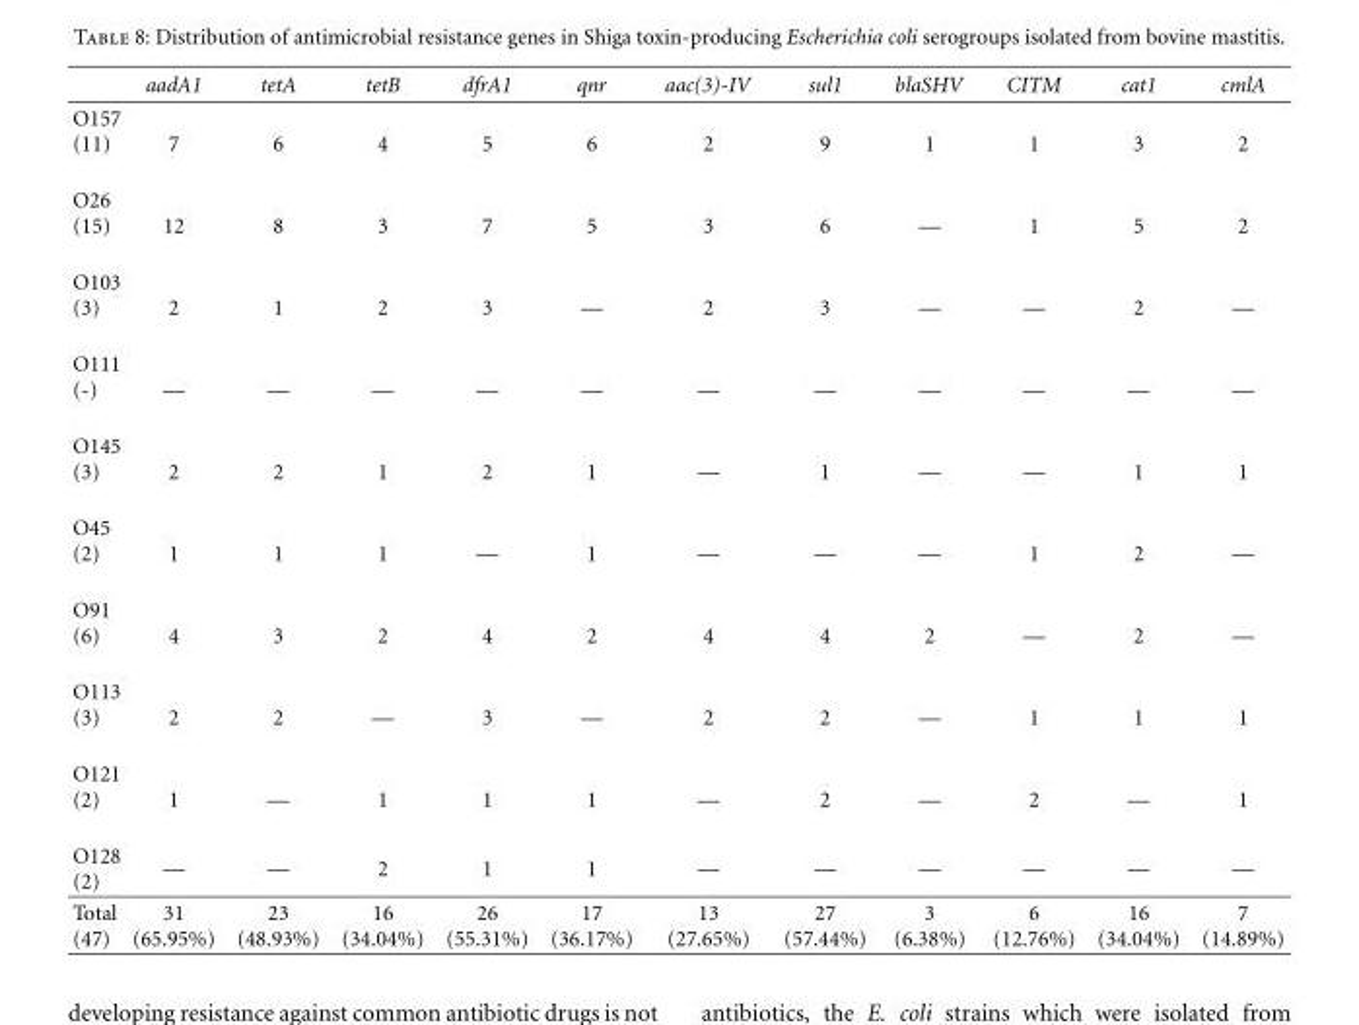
<table><thead><tr><td></td><td>aadA1</td><td>tetA</td><td>tetB</td><td>dfrA1</td><td>qnr</td><td>aac(3)-IV</td><td>sul1</td><td>blaSHV</td><td>CITM</td><td>cat1</td><td>cmlA</td></tr></thead><tbody><tr><td>O157 (11)</td><td>7</td><td>6</td><td>4</td><td>5</td><td>6</td><td>2</td><td>9</td><td>1</td><td>1</td><td>3</td><td>2</td></tr><tr><td>O26 (15)</td><td>12</td><td>8</td><td>3</td><td>7</td><td>5</td><td>3</td><td>6</td><td>—</td><td>1</td><td>5</td><td>2</td></tr><tr><td>O103 (3)</td><td>2</td><td>1</td><td>2</td><td>3</td><td>—</td><td>2</td><td>3</td><td>—</td><td>—</td><td>2</td><td>—</td></tr><tr><td>O111 (-)</td><td>—</td><td>—</td><td>—</td><td>—</td><td>—</td><td>—</td><td>—</td><td>—</td><td>—</td><td>—</td><td>—</td></tr><tr><td>O145 (3)</td><td>2</td><td>2</td><td>1</td><td>2</td><td>1</td><td>—</td><td>1</td><td>—</td><td>—</td><td>1</td><td>1</td></tr><tr><td>O45 (2)</td><td>1</td><td>1</td><td>1</td><td>—</td><td>1</td><td>—</td><td>—</td><td>—</td><td>1</td><td>2</td><td>—</td></tr><tr><td>O91 (6)</td><td>4</td><td>3</td><td>2</td><td>4</td><td>2</td><td>4</td><td>4</td><td>2</td><td>—</td><td>2</td><td>—</td></tr><tr><td>O113 (3)</td><td>2</td><td>2</td><td>—</td><td>3</td><td>—</td><td>2</td><td>2</td><td>—</td><td>1</td><td>1</td><td>1</td></tr><tr><td>O121 (2)</td><td>1</td><td>—</td><td>1</td><td>1</td><td>1</td><td>—</td><td>2</td><td>—</td><td>2</td><td>—</td><td>1</td></tr><tr><td>O128 (2)</td><td>—</td><td>—</td><td>2</td><td>1</td><td>1</td><td>—</td><td>—</td><td>—</td><td>—</td><td>—</td><td>—</td></tr><tr><td>Total (47)</td><td>31 (65.95%)</td><td>23 (48.93%)</td><td>16 (34.04%)</td><td>26 (55.31%)</td><td>17 (36.17%)</td><td>13 (27.65%)</td><td>27 (57.44%)</td><td>3 (6.38%)</td><td>6 (12.76%)</td><td>16 (34.04%)</td><td>7 (14.89%)</td></tr></tbody></table>